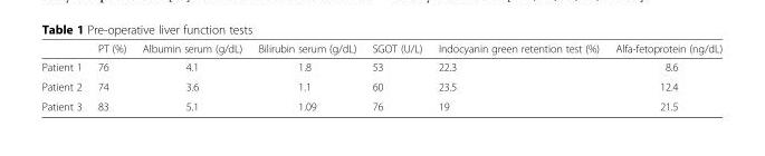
<table><thead><tr><td></td><td>PT (%)</td><td>Albumin serum (g/dL)</td><td>Bilirubin serum (g/dL)</td><td>SGOT (U/L)</td><td>Indocyanin green retention test (%)</td><td>Alfa-fetoprotein (ng/dL)</td></tr></thead><tbody><tr><td>Patient 1</td><td>76</td><td>4.1</td><td>1.8</td><td>53</td><td>22.3</td><td>8.6</td></tr><tr><td>Patient 2</td><td>74</td><td>3.6</td><td>1.1</td><td>60</td><td>23.5</td><td>12.4</td></tr><tr><td>Patient 3</td><td>83</td><td>5.1</td><td>1.09</td><td>76</td><td>19</td><td>21.5</td></tr></tbody></table>